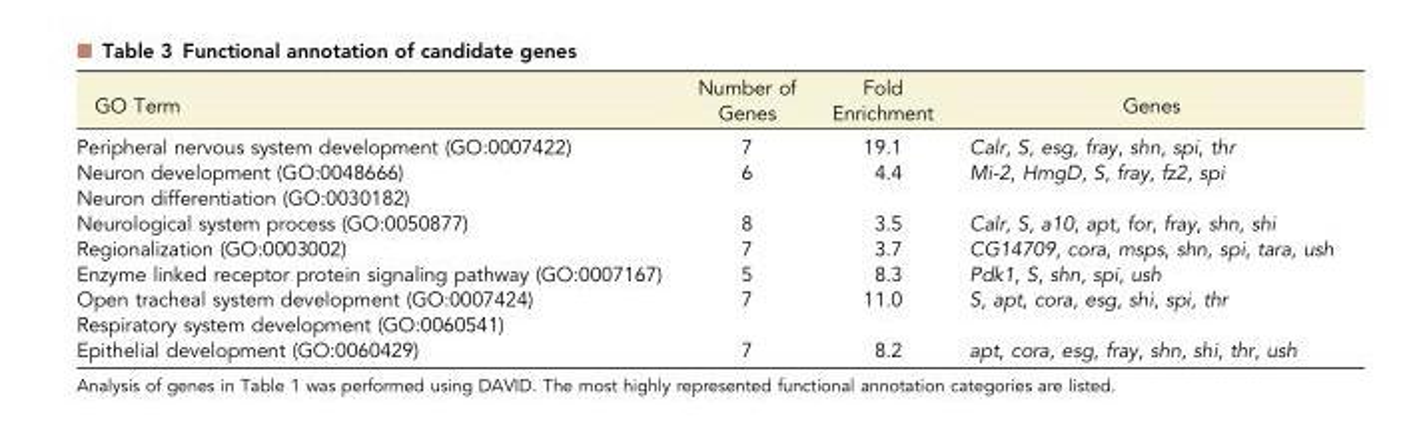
<table><thead><tr><td>GO Term</td><td>Number of Genes</td><td>Fold Enrichment</td><td>Genes</td></tr></thead><tbody><tr><td>Peripheral nervous system development (GO:0007422)</td><td>7</td><td>19.1</td><td>Calr, S, esg, fray, shn, spi, thr</td></tr><tr><td>Neuron development (GO:0048666)</td><td rowspan="2">6</td><td rowspan="2">4.4</td><td rowspan="2">Mi-2, HmgD, S, fray, fz2, spi</td></tr><tr><td>Neuron differentiation (GO:0030182)</td></tr><tr><td>Neurological system process (GO:0050877)</td><td>8</td><td>3.5</td><td>Calr, S, a10, apt, for, fray, shn, shi</td></tr><tr><td>Regionalization (GO:0003002)</td><td>7</td><td>3.7</td><td>CG14709, cora, msps, shn, spi, tara, ush</td></tr><tr><td>Enzyme linked receptor protein signaling pathway (GO:0007167)</td><td>5</td><td>8.3</td><td>Pdk1, S, shn, spi, ush</td></tr><tr><td>Open tracheal system development (GO:0007424)</td><td rowspan="2">7</td><td rowspan="2">11.0</td><td rowspan="2">S, apt, cora, esg, shi, spi, thr</td></tr><tr><td>Respiratory system development (GO:0060541)</td></tr><tr><td>Epithelial development (GO:0060429)</td><td>7</td><td>8.2</td><td>apt, cora, esg, fray, shn, shi, thr, ush</td></tr></tbody></table>